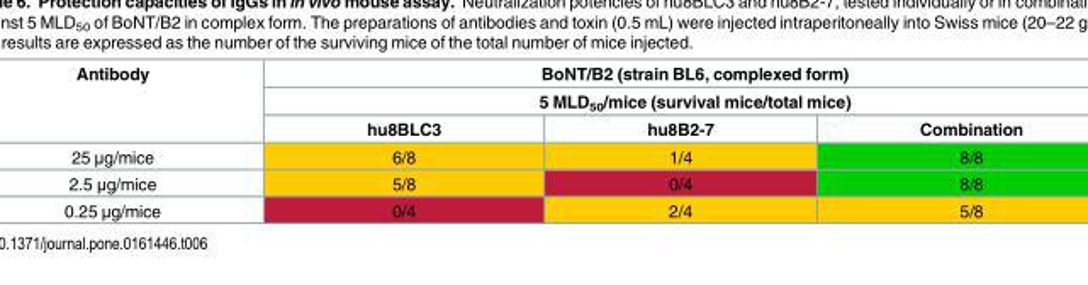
<table><thead><tr><td rowspan="3">Antibody</td><td rowspan="2" colspan="3">BoNT/B2 (strain BL6, complexed form) 5 MLD<sub>50</sub>/mice (survival mice/total mice)</td></tr><tr></tr><tr><td>hu8BLC3</td><td>hu8B2-7</td><td>Combination</td></tr></thead><tbody><tr><td>25 μg/mice</td><td>6/8</td><td>1/4</td><td>8/8</td></tr><tr><td>2.5 μg/mice</td><td>5/8</td><td>0/4</td><td>8/8</td></tr><tr><td>0.25 μg/mice</td><td>0/4</td><td>2/4</td><td>5/8</td></tr></tbody></table>